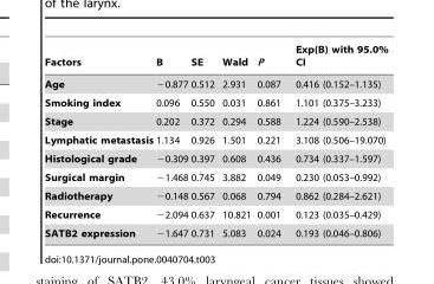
<table><thead><tr><td>Factors</td><td>B</td><td>SE</td><td>Wald</td><td>P</td><td>Exp(B) with 95.0% CI</td></tr></thead><tbody><tr><td>Age</td><td>−0.877</td><td>0.512</td><td>2.931</td><td>0.087</td><td>0.416 (0.152–1.135)</td></tr><tr><td>Smoking index</td><td>0.096</td><td>0.550</td><td>0.031</td><td>0.861</td><td>1.101 (0.375–3.233)</td></tr><tr><td>Stage</td><td>0.202</td><td>0.372</td><td>0.294</td><td>0.588</td><td>1.224 (0.590–2.538)</td></tr><tr><td>Lymphatic metastasis</td><td>1.134</td><td>0.926</td><td>1.501</td><td>0.221</td><td>3.108 (0.506–19.070)</td></tr><tr><td>Histological grade</td><td>−0.309</td><td>0.397</td><td>0.608</td><td>0.436</td><td>0.734 (0.337–1.597)</td></tr><tr><td>Surgical margin</td><td>−1.468</td><td>0.745</td><td>3.882</td><td>0.049</td><td>0.230 (0.053–0.992)</td></tr><tr><td>Radiotherapy</td><td>−0.148</td><td>0.567</td><td>0.068</td><td>0.794</td><td>0.862 (0.284–2.621)</td></tr><tr><td>Recurrence</td><td>−2.094</td><td>0.637</td><td>10.821</td><td>0.001</td><td>0.123 (0.035–0.429)</td></tr><tr><td>SATB2 expression</td><td>−1.647</td><td>0.731</td><td>5.083</td><td>0.024</td><td>0.193 (0.046–0.806)</td></tr></tbody></table>